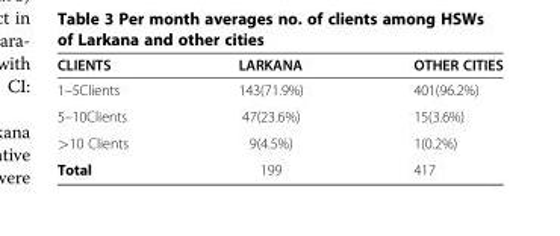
<table><thead><tr><td>CLIENTS</td><td>LARKANA</td><td>OTHER CITIES</td></tr></thead><tbody><tr><td>1–5Clients</td><td>143(71.9%)</td><td>401(96.2%)</td></tr><tr><td>5–10Clients</td><td>47(23.6%)</td><td>15(3.6%)</td></tr><tr><td>&gt;10 Clients</td><td>9(4.5%)</td><td>1(0.2%)</td></tr><tr><td>Total</td><td>199</td><td>417</td></tr></tbody></table>